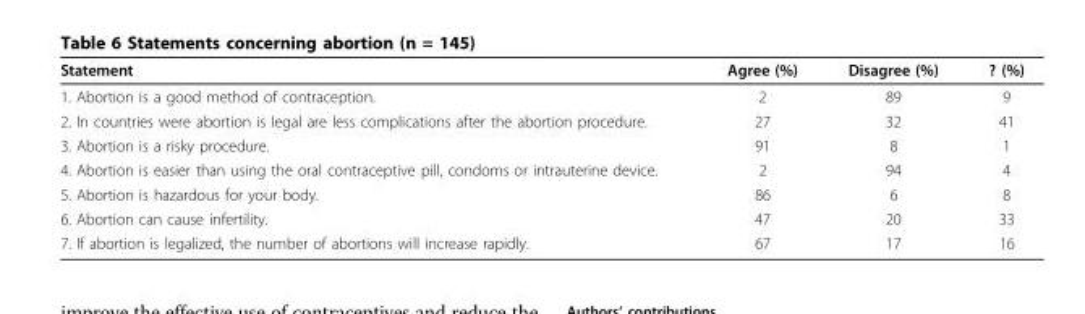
<table><thead><tr><td>Statement</td><td>Agree (%)</td><td>Disagree (%)</td><td>? (%)</td></tr></thead><tbody><tr><td>1. Abortion is a good method of contraception.</td><td>2</td><td>89</td><td>9</td></tr><tr><td>2. In countries were abortion is legal are less complications after the abortion procedure.</td><td>27</td><td>32</td><td>41</td></tr><tr><td>3. Abortion is a risky procedure.</td><td>91</td><td>8</td><td>1</td></tr><tr><td>4. Abortion is easier than using the oral contraceptive pill, condoms or intrauterine device.</td><td>2</td><td>94</td><td>4</td></tr><tr><td>5. Abortion is hazardous for your body.</td><td>86</td><td>6</td><td>8</td></tr><tr><td>6. Abortion can cause infertility.</td><td>47</td><td>20</td><td>33</td></tr><tr><td>7. If abortion is legalized, the number of abortions will increase rapidly.</td><td>67</td><td>17</td><td>16</td></tr></tbody></table>